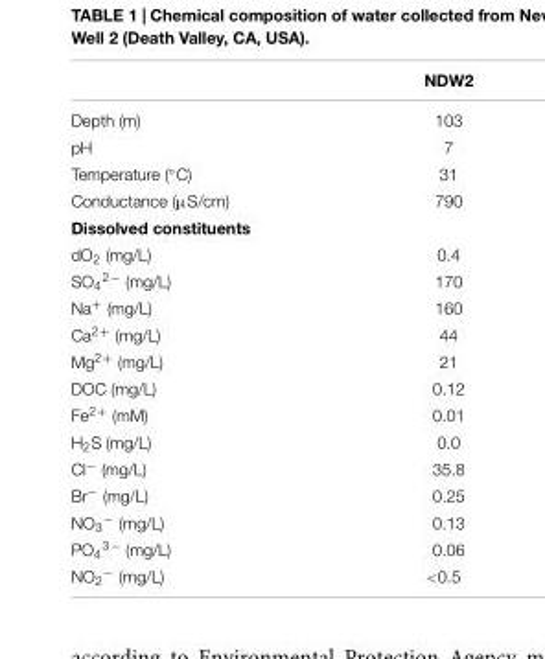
<table><thead><tr><td></td><td>NDW2</td></tr></thead><tbody><tr><td>Depth (m)</td><td>103</td></tr><tr><td>pH</td><td>7</td></tr><tr><td>Temperature (◦C)</td><td>31</td></tr><tr><td>Conductance (µS/cm)</td><td>790</td></tr><tr><td colspan="2">Dissolved constituents</td></tr><tr><td>dO<sub>2</sub> (mg/L)</td><td>0.4</td></tr><tr><td>SO<sub>4</sub><sup>2−</sup> (mg/L)</td><td>170</td></tr><tr><td>Na<sup>+</sup> (mg/L)</td><td>160</td></tr><tr><td>Ca<sup>2+</sup> (mg/L)</td><td>44</td></tr><tr><td>Mg<sup>2+</sup> (mg/L)</td><td>21</td></tr><tr><td>DOC (mg/L)</td><td>0.12</td></tr><tr><td>Fe<sup>2+</sup> (mM)</td><td>0.01</td></tr><tr><td>H<sub>2</sub>S (mg/L)</td><td>0.0</td></tr><tr><td>Cl<sup>−</sup> (mg/L)</td><td>35.8</td></tr><tr><td>Br<sup>−</sup> (mg/L)</td><td>0.25</td></tr><tr><td>NO<sub>3</sub><sup>−</sup> (mg/L)</td><td>0.13</td></tr><tr><td>PO<sub>4</sub><sup>3−</sup> (mg/L)</td><td>0.06</td></tr><tr><td>NO<sub>2</sub><sup>−</sup> (mg/L)</td><td>&lt;0.5</td></tr></tbody></table>